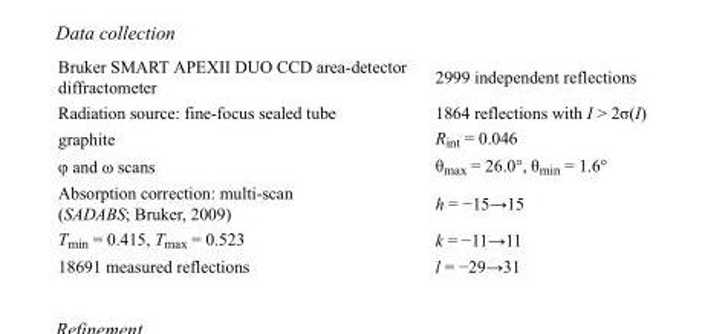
<table><tbody><tr><td>Bruker SMART APEXII DUO CCD area-detector diffractometer</td><td>2999 independent reflections</td></tr><tr><td>Radiation source: fine-focus sealed tube</td><td>1864 reflections with I &gt; 2σ(I)</td></tr><tr><td>graphite</td><td>R<sub>int</sub> = 0.046</td></tr><tr><td>φ and ω scans</td><td>θ<sub>max</sub> = 26.0°, θ<sub>min</sub> = 1.6°</td></tr><tr><td>Absorption correction: multi-scan (SADABS; Bruker, 2009)</td><td>h = −15→15</td></tr><tr><td>T<sub>min</sub> = 0.415, T<sub>max</sub> = 0.523</td><td>k = −11→11</td></tr><tr><td>18691 measured reflections</td><td>l = −29→31</td></tr></tbody></table>